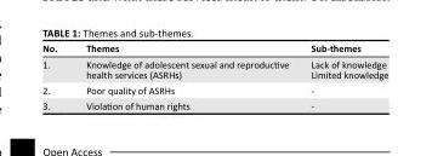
<table><thead><tr><td>No.</td><td>Themes</td><td>Sub-themes</td></tr></thead><tbody><tr><td>1.</td><td>Knowledge of adolescent sexual and reproductive health services (ASRHs)</td><td>Lack of knowledge Limited knowledge</td></tr><tr><td>2.</td><td>Poor quality of ASRHs</td><td>-</td></tr><tr><td>3.</td><td>Violation of human rights</td><td>-</td></tr></tbody></table>